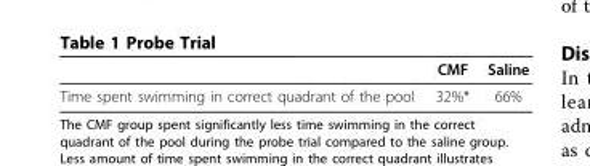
<table><thead><tr><td></td><td>CMF</td><td>Saline</td></tr></thead><tbody><tr><td>Time spent swimming in correct quadrant of the pool</td><td>32%*</td><td>66%</td></tr></tbody></table>